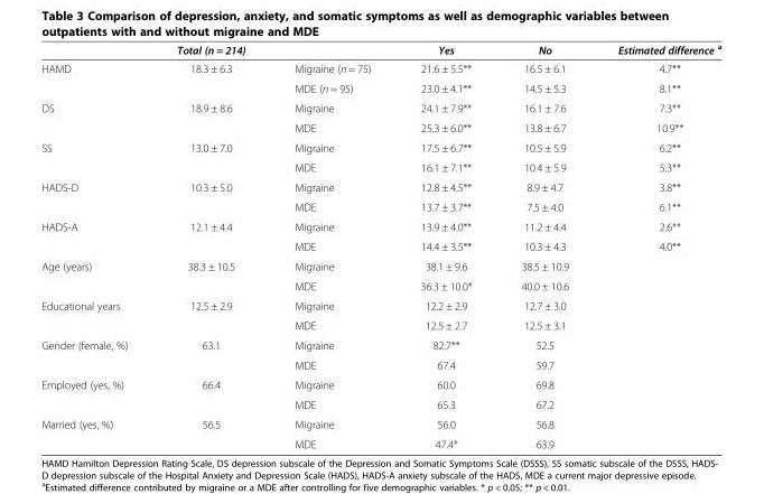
<table><thead><tr><td></td><td>Total (n = 214)</td><td></td><td>Yes</td><td>No</td><td>Estimated difference <sup>a</sup></td></tr></thead><tbody><tr><td rowspan="2">HAMD</td><td>18.3 ± 6.3</td><td>Migraine (n = 75)</td><td>21.6 ± 5.5**</td><td>16.5 ± 6.1</td><td>4.7**</td></tr><tr><td></td><td>MDE (n = 95)</td><td>23.0 ± 4.1**</td><td>14.5 ± 5.3</td><td>8.1**</td></tr><tr><td rowspan="2">DS</td><td>18.9 ± 8.6</td><td>Migraine</td><td>24.1 ± 7.9**</td><td>16.1 ± 7.6</td><td>7.3**</td></tr><tr><td></td><td>MDE</td><td>25.3 ± 6.0**</td><td>13.8 ± 6.7</td><td>10.9**</td></tr><tr><td rowspan="2">SS</td><td>13.0 ± 7.0</td><td>Migraine</td><td>17.5 ± 6.7**</td><td>10.5 ± 5.9</td><td>6.2**</td></tr><tr><td></td><td>MDE</td><td>16.1 ± 7.1**</td><td>10.4 ± 5.9</td><td>5.3**</td></tr><tr><td rowspan="2">HADS-D</td><td>10.3 ± 5.0</td><td>Migraine</td><td>12.8 ± 4.5**</td><td>8.9 ± 4.7</td><td>3.8**</td></tr><tr><td></td><td>MDE</td><td>13.7 ± 3.7**</td><td>7.5 ± 4.0</td><td>6.1**</td></tr><tr><td rowspan="2">HADS-A</td><td>12.1 ± 4.4</td><td>Migraine</td><td>13.9 ± 4.0**</td><td>11.2 ± 4.4</td><td>2.6**</td></tr><tr><td></td><td>MDE</td><td>14.4 ± 3.5**</td><td>10.3 ± 4.3</td><td>4.0**</td></tr><tr><td rowspan="2">Age (years)</td><td>38.3 ± 10.5</td><td>Migraine</td><td>38.1 ± 9.6</td><td>38.5 ± 10.9</td><td></td></tr><tr><td></td><td>MDE</td><td>36.3 ± 10.0*</td><td>40.0 ± 10.6</td><td></td></tr><tr><td rowspan="2">Educational years</td><td>12.5 ± 2.9</td><td>Migraine</td><td>12.2 ± 2.9</td><td>12.7 ± 3.0</td><td></td></tr><tr><td></td><td>MDE</td><td>12.5 ± 2.7</td><td>12.5 ± 3.1</td><td></td></tr><tr><td rowspan="2">Gender (female, %)</td><td>63.1</td><td>Migraine</td><td>82.7**</td><td>52.5</td><td></td></tr><tr><td></td><td>MDE</td><td>67.4</td><td>59.7</td><td></td></tr><tr><td rowspan="2">Employed (yes, %)</td><td>66.4</td><td>Migraine</td><td>60.0</td><td>69.8</td><td></td></tr><tr><td></td><td>MDE</td><td>65.3</td><td>67.2</td><td></td></tr><tr><td rowspan="2">Married (yes, %)</td><td>56.5</td><td>Migraine</td><td>56.0</td><td>56.8</td><td></td></tr><tr><td></td><td>MDE</td><td>47.4*</td><td>63.9</td><td></td></tr></tbody></table>